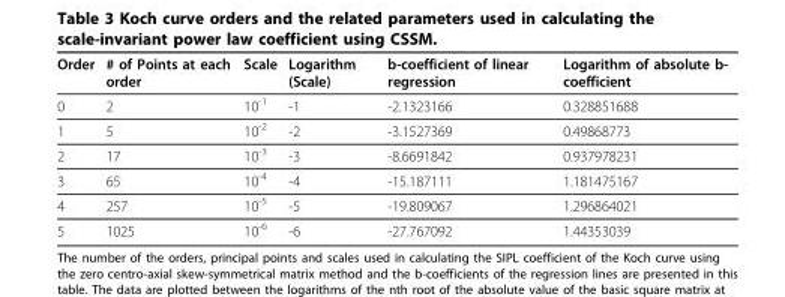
<table><thead><tr><td>Order</td><td># of Points at each order</td><td>Scale</td><td>Logarithm (Scale)</td><td>b-coefficient of linear regression</td><td>Logarithm of absolute b- coefficient</td></tr></thead><tbody><tr><td>0</td><td>2</td><td>10<sup>-1</sup></td><td>-1</td><td>-2.1323166</td><td>0.328851688</td></tr><tr><td>1</td><td>5</td><td>10<sup>-2</sup></td><td>-2</td><td>-3.1527369</td><td>0.49868773</td></tr><tr><td>2</td><td>17</td><td>10<sup>-3</sup></td><td>-3</td><td>-8.6691842</td><td>0.937978231</td></tr><tr><td>3</td><td>65</td><td>10<sup>-4</sup></td><td>-4</td><td>-15.187111</td><td>1.181475167</td></tr><tr><td>4</td><td>257</td><td>10<sup>-5</sup></td><td>-5</td><td>-19.809067</td><td>1.296864021</td></tr><tr><td>5</td><td>1025</td><td>10<sup>-6</sup></td><td>-6</td><td>-27.767092</td><td>1.44353039</td></tr></tbody></table>